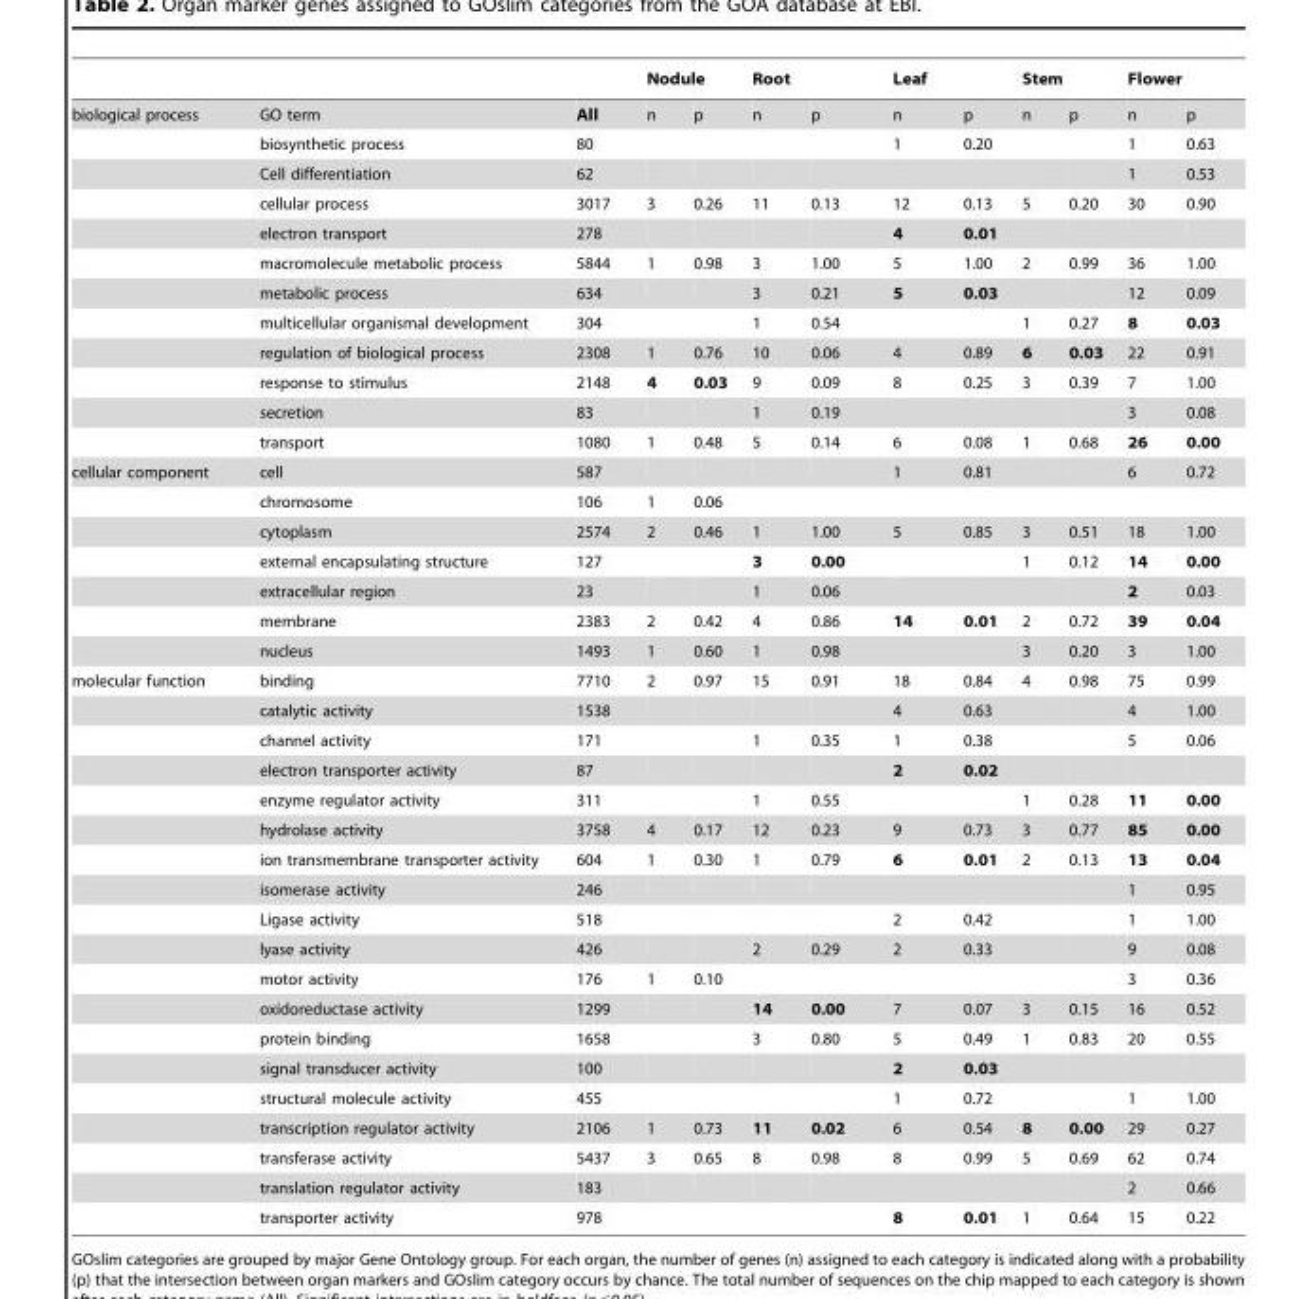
<table><thead><tr><td rowspan="2">biological process</td><td rowspan="2">GO term</td><td rowspan="2">All</td><td colspan="2">Nodule</td><td colspan="2">Root</td><td colspan="2">Leaf</td><td colspan="2">Stem</td><td colspan="2">Flower</td></tr><tr><td>n</td><td>p</td><td>n</td><td>p</td><td>n</td><td>p</td><td>n</td><td>p</td><td>n</td><td>p</td></tr></thead><tbody><tr><td></td><td>biosynthetic process</td><td>80</td><td></td><td></td><td></td><td></td><td>1</td><td>0.20</td><td></td><td></td><td>1</td><td>0.63</td></tr><tr><td></td><td>Cell differentiation</td><td>62</td><td></td><td></td><td></td><td></td><td></td><td></td><td></td><td></td><td>1</td><td>0.53</td></tr><tr><td></td><td>cellular process</td><td>3017</td><td>3</td><td>0.26</td><td>11</td><td>0.13</td><td>12</td><td>0.13</td><td>5</td><td>0.20</td><td>30</td><td>0.90</td></tr><tr><td></td><td>electron transport</td><td>278</td><td></td><td></td><td></td><td></td><td>4</td><td>0.01</td><td></td><td></td><td></td><td></td></tr><tr><td></td><td>macromolecule metabolic process</td><td>5844</td><td>1</td><td>0.98</td><td>3</td><td>1.00</td><td>5</td><td>1.00</td><td>2</td><td>0.99</td><td>36</td><td>1.00</td></tr><tr><td></td><td>metabolic process</td><td>634</td><td></td><td></td><td>3</td><td>0.21</td><td>5</td><td>0.03</td><td></td><td></td><td>12</td><td>0.09</td></tr><tr><td></td><td>multicellular organismal development</td><td>304</td><td></td><td></td><td>1</td><td>0.54</td><td></td><td></td><td>1</td><td>0.27</td><td>8</td><td>0.03</td></tr><tr><td></td><td>regulation of biological process</td><td>2308</td><td>1</td><td>0.76</td><td>10</td><td>0.06</td><td>4</td><td>0.89</td><td>6</td><td>0.03</td><td>22</td><td>0.91</td></tr><tr><td></td><td>response to stimulus</td><td>2148</td><td>4</td><td>0.03</td><td>9</td><td>0.09</td><td>8</td><td>0.25</td><td>3</td><td>0.39</td><td>7</td><td>1.00</td></tr><tr><td></td><td>secretion</td><td>83</td><td></td><td></td><td>1</td><td>0.19</td><td></td><td></td><td></td><td></td><td>3</td><td>0.08</td></tr><tr><td></td><td>transport</td><td>1080</td><td>1</td><td>0.48</td><td>5</td><td>0.14</td><td>6</td><td>0.08</td><td>1</td><td>0.68</td><td>26</td><td>0.00</td></tr><tr><td rowspan="7">cellular component</td><td>cell</td><td>587</td><td></td><td></td><td></td><td></td><td>1</td><td>0.81</td><td></td><td></td><td>6</td><td>0.72</td></tr><tr><td>chromosome</td><td>106</td><td>1</td><td>0.06</td><td></td><td></td><td></td><td></td><td></td><td></td><td></td><td></td></tr><tr><td>cytoplasm</td><td>2574</td><td>2</td><td>0.46</td><td>1</td><td>1.00</td><td>5</td><td>0.85</td><td>3</td><td>0.51</td><td>18</td><td>1.00</td></tr><tr><td>external encapsulating structure</td><td>127</td><td></td><td></td><td>3</td><td>0.00</td><td></td><td></td><td>1</td><td>0.12</td><td>14</td><td>0.00</td></tr><tr><td>extracellular region</td><td>23</td><td></td><td></td><td>1</td><td>0.06</td><td></td><td></td><td></td><td></td><td>2</td><td>0.03</td></tr><tr><td>membrane</td><td>2383</td><td>2</td><td>0.42</td><td>4</td><td>0.86</td><td>14</td><td>0.01</td><td>2</td><td>0.72</td><td>39</td><td>0.04</td></tr><tr><td>nucleus</td><td>1493</td><td>1</td><td>0.60</td><td>1</td><td>0.98</td><td></td><td></td><td>3</td><td>0.20</td><td>3</td><td>1.00</td></tr><tr><td rowspan="19">molecular function</td><td>binding</td><td>7710</td><td>2</td><td>0.97</td><td>15</td><td>0.91</td><td>18</td><td>0.84</td><td>4</td><td>0.98</td><td>75</td><td>0.99</td></tr><tr><td>catalytic activity</td><td>1538</td><td></td><td></td><td></td><td></td><td>4</td><td>0.63</td><td></td><td></td><td>4</td><td>1.00</td></tr><tr><td>channel activity</td><td>171</td><td></td><td></td><td>1</td><td>0.35</td><td>1</td><td>0.38</td><td></td><td></td><td>5</td><td>0.06</td></tr><tr><td>electron transporter activity</td><td>87</td><td></td><td></td><td></td><td></td><td>2</td><td>0.02</td><td></td><td></td><td></td><td></td></tr><tr><td>enzyme regulator activity</td><td>311</td><td></td><td></td><td>1</td><td>0.55</td><td></td><td></td><td>1</td><td>0.28</td><td>11</td><td>0.00</td></tr><tr><td>hydrolase activity</td><td>3758</td><td>4</td><td>0.17</td><td>12</td><td>0.23</td><td>9</td><td>0.73</td><td>3</td><td>0.77</td><td>85</td><td>0.00</td></tr><tr><td>ion transmembrane transporter activity</td><td>604</td><td>1</td><td>0.30</td><td>1</td><td>0.79</td><td>6</td><td>0.01</td><td>2</td><td>0.13</td><td>13</td><td>0.04</td></tr><tr><td>isomerase activity</td><td>246</td><td></td><td></td><td></td><td></td><td></td><td></td><td></td><td></td><td>1</td><td>0.95</td></tr><tr><td>Ligase activity</td><td>518</td><td></td><td></td><td></td><td></td><td>2</td><td>0.42</td><td></td><td></td><td>1</td><td>1.00</td></tr><tr><td>lyase activity</td><td>426</td><td></td><td></td><td>2</td><td>0.29</td><td>2</td><td>0.33</td><td></td><td></td><td>9</td><td>0.08</td></tr><tr><td>motor activity</td><td>176</td><td>1</td><td>0.10</td><td></td><td></td><td></td><td></td><td></td><td></td><td>3</td><td>0.36</td></tr><tr><td>oxidoreductase activity</td><td>1299</td><td></td><td></td><td>14</td><td>0.00</td><td>7</td><td>0.07</td><td>3</td><td>0.15</td><td>16</td><td>0.52</td></tr><tr><td>protein binding</td><td>1658</td><td></td><td></td><td>3</td><td>0.80</td><td>5</td><td>0.49</td><td>1</td><td>0.83</td><td>20</td><td>0.55</td></tr><tr><td>signal transducer activity</td><td>100</td><td></td><td></td><td></td><td></td><td>2</td><td>0.03</td><td></td><td></td><td></td><td></td></tr><tr><td>structural molecule activity</td><td>455</td><td></td><td></td><td></td><td></td><td>1</td><td>0.72</td><td></td><td></td><td>1</td><td>1.00</td></tr><tr><td>transcription regulator activity</td><td>2106</td><td>1</td><td>0.73</td><td>11</td><td>0.02</td><td>6</td><td>0.54</td><td>8</td><td>0.00</td><td>29</td><td>0.27</td></tr><tr><td>transferase activity</td><td>5437</td><td>3</td><td>0.65</td><td>8</td><td>0.98</td><td>8</td><td>0.99</td><td>5</td><td>0.69</td><td>62</td><td>0.74</td></tr><tr><td>translation regulator activity</td><td>183</td><td></td><td></td><td></td><td></td><td></td><td></td><td></td><td></td><td>2</td><td>0.66</td></tr><tr><td>transporter activity</td><td>978</td><td></td><td></td><td></td><td></td><td>8</td><td>0.01</td><td>1</td><td>0.64</td><td>15</td><td>0.22</td></tr></tbody></table>